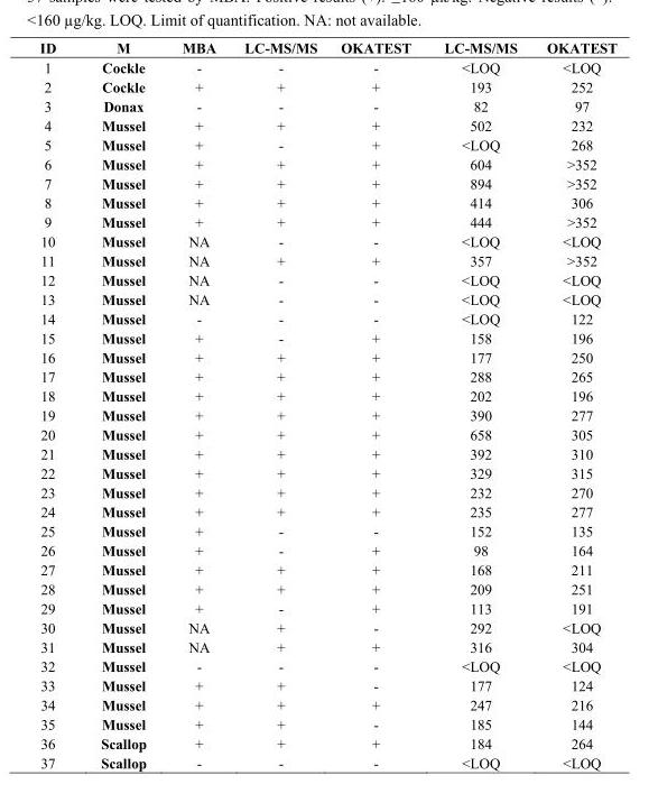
<table><thead><tr><td>ID</td><td>M</td><td>MBA</td><td>LC-MS/MS</td><td>OKATEST</td><td>LC-MS/MS</td><td>OKATEST</td></tr></thead><tbody><tr><td>1</td><td>Cockle</td><td>-</td><td>-</td><td>-</td><td>&lt;LOQ</td><td>&lt;LOQ</td></tr><tr><td>2</td><td>Cockle</td><td>+</td><td>+</td><td>+</td><td>193</td><td>252</td></tr><tr><td>3</td><td>Donax</td><td>-</td><td>-</td><td>-</td><td>82</td><td>97</td></tr><tr><td>4</td><td>Mussel</td><td>+</td><td>+</td><td>+</td><td>502</td><td>232</td></tr><tr><td>5</td><td>Mussel</td><td>+</td><td>-</td><td>+</td><td>&lt;LOQ</td><td>268</td></tr><tr><td>6</td><td>Mussel</td><td>+</td><td>+</td><td>+</td><td>604</td><td>&gt;352</td></tr><tr><td>7</td><td>Mussel</td><td>+</td><td>+</td><td>+</td><td>894</td><td>&gt;352</td></tr><tr><td>8</td><td>Mussel</td><td>+</td><td>+</td><td>+</td><td>414</td><td>306</td></tr><tr><td>9</td><td>Mussel</td><td>+</td><td>+</td><td>+</td><td>444</td><td>&gt;352</td></tr><tr><td>10</td><td>Mussel</td><td>NA</td><td>-</td><td>-</td><td>&lt;LOQ</td><td>&lt;LOQ</td></tr><tr><td>11</td><td>Mussel</td><td>NA</td><td>+</td><td>+</td><td>357</td><td>&gt;352</td></tr><tr><td>12</td><td>Mussel</td><td>NA</td><td>-</td><td>-</td><td>&lt;LOQ</td><td>&lt;LOQ</td></tr><tr><td>13</td><td>Mussel</td><td>NA</td><td>-</td><td>-</td><td>&lt;LOQ</td><td>&lt;LOQ</td></tr><tr><td>14</td><td>Mussel</td><td>-</td><td>-</td><td>-</td><td>&lt;LOQ</td><td>122</td></tr><tr><td>15</td><td>Mussel</td><td>+</td><td>-</td><td>+</td><td>158</td><td>196</td></tr><tr><td>16</td><td>Mussel</td><td>+</td><td>+</td><td>+</td><td>177</td><td>250</td></tr><tr><td>17</td><td>Mussel</td><td>+</td><td>+</td><td>+</td><td>288</td><td>265</td></tr><tr><td>18</td><td>Mussel</td><td>+</td><td>+</td><td>+</td><td>202</td><td>196</td></tr><tr><td>19</td><td>Mussel</td><td>+</td><td>+</td><td>+</td><td>390</td><td>277</td></tr><tr><td>20</td><td>Mussel</td><td>+</td><td>+</td><td>+</td><td>658</td><td>305</td></tr><tr><td>21</td><td>Mussel</td><td>+</td><td>+</td><td>+</td><td>392</td><td>310</td></tr><tr><td>22</td><td>Mussel</td><td>+</td><td>+</td><td>+</td><td>329</td><td>315</td></tr><tr><td>23</td><td>Mussel</td><td>+</td><td>+</td><td>+</td><td>232</td><td>270</td></tr><tr><td>24</td><td>Mussel</td><td>+</td><td>+</td><td>+</td><td>235</td><td>277</td></tr><tr><td>25</td><td>Mussel</td><td>+</td><td>-</td><td>-</td><td>152</td><td>135</td></tr><tr><td>26</td><td>Mussel</td><td>+</td><td>-</td><td>+</td><td>98</td><td>164</td></tr><tr><td>27</td><td>Mussel</td><td>+</td><td>+</td><td>+</td><td>168</td><td>211</td></tr><tr><td>28</td><td>Mussel</td><td>+</td><td>+</td><td>+</td><td>209</td><td>251</td></tr><tr><td>29</td><td>Mussel</td><td>+</td><td>-</td><td>+</td><td>113</td><td>191</td></tr><tr><td>30</td><td>Mussel</td><td>NA</td><td>+</td><td>-</td><td>292</td><td>&lt;LOQ</td></tr><tr><td>31</td><td>Mussel</td><td>NA</td><td>+</td><td>+</td><td>316</td><td>304</td></tr><tr><td>32</td><td>Mussel</td><td>-</td><td>-</td><td>-</td><td>&lt;LOQ</td><td>&lt;LOQ</td></tr><tr><td>33</td><td>Mussel</td><td>+</td><td>+</td><td>-</td><td>177</td><td>124</td></tr><tr><td>34</td><td>Mussel</td><td>+</td><td>+</td><td>+</td><td>247</td><td>216</td></tr><tr><td>35</td><td>Mussel</td><td>+</td><td>+</td><td>-</td><td>185</td><td>144</td></tr><tr><td>36</td><td>Scallop</td><td>+</td><td>+</td><td>+</td><td>184</td><td>264</td></tr><tr><td>37</td><td>Scallop</td><td>-</td><td>-</td><td>-</td><td>&lt;LOQ</td><td>&lt;LOQ</td></tr></tbody></table>